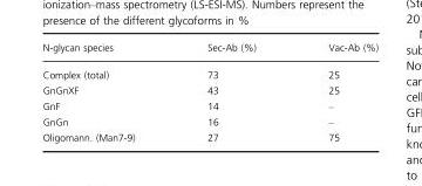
<table><thead><tr><td>N-glycan species</td><td>Sec-Ab (%)</td><td>Vac-Ab (%)</td></tr></thead><tbody><tr><td>Complex (total)</td><td>73</td><td>25</td></tr><tr><td>GnGnXF</td><td>43</td><td>25</td></tr><tr><td>GnF</td><td>14</td><td>–</td></tr><tr><td>GnGn</td><td>16</td><td>–</td></tr><tr><td>Oligomann. (Man7-9)</td><td>27</td><td>75</td></tr></tbody></table>